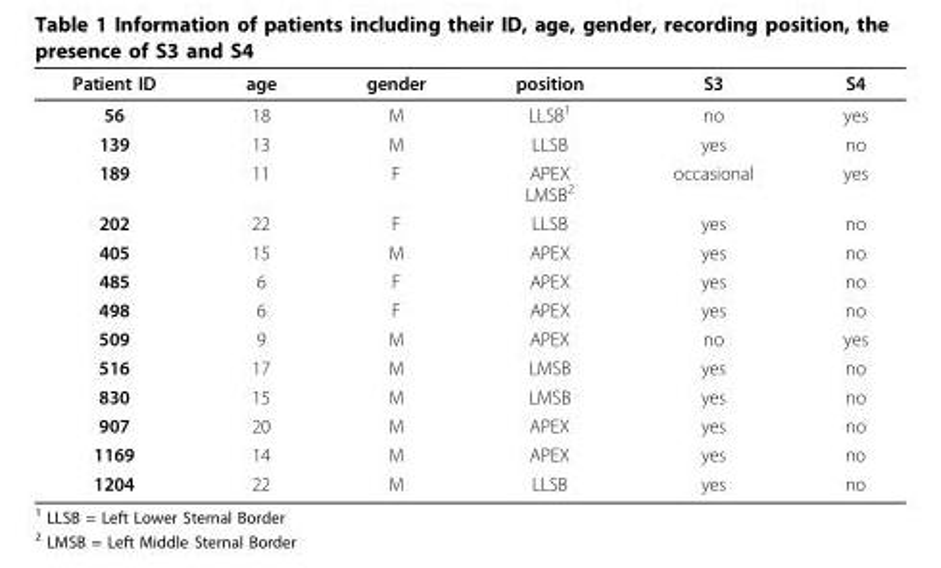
<table><thead><tr><td>Patient ID</td><td>age</td><td>gender</td><td>position</td><td>S3</td><td>S4</td></tr></thead><tbody><tr><td>56</td><td>18</td><td>M</td><td>LLSB<sup>1</sup></td><td>no</td><td>yes</td></tr><tr><td>139</td><td>13</td><td>M</td><td>LLSB</td><td>yes</td><td>no</td></tr><tr><td>189</td><td>11</td><td>F</td><td>APEX LMSB<sup>2</sup></td><td>occasional</td><td>yes</td></tr><tr><td>202</td><td>22</td><td>F</td><td>LLSB</td><td>yes</td><td>no</td></tr><tr><td>405</td><td>15</td><td>M</td><td>APEX</td><td>yes</td><td>no</td></tr><tr><td>485</td><td>6</td><td>F</td><td>APEX</td><td>yes</td><td>no</td></tr><tr><td>498</td><td>6</td><td>F</td><td>APEX</td><td>yes</td><td>no</td></tr><tr><td>509</td><td>9</td><td>M</td><td>APEX</td><td>no</td><td>yes</td></tr><tr><td>516</td><td>17</td><td>M</td><td>LMSB</td><td>yes</td><td>no</td></tr><tr><td>830</td><td>15</td><td>M</td><td>LMSB</td><td>yes</td><td>no</td></tr><tr><td>907</td><td>20</td><td>M</td><td>APEX</td><td>yes</td><td>no</td></tr><tr><td>1169</td><td>14</td><td>M</td><td>APEX</td><td>yes</td><td>no</td></tr><tr><td>1204</td><td>22</td><td>M</td><td>LLSB</td><td>yes</td><td>no</td></tr></tbody></table>